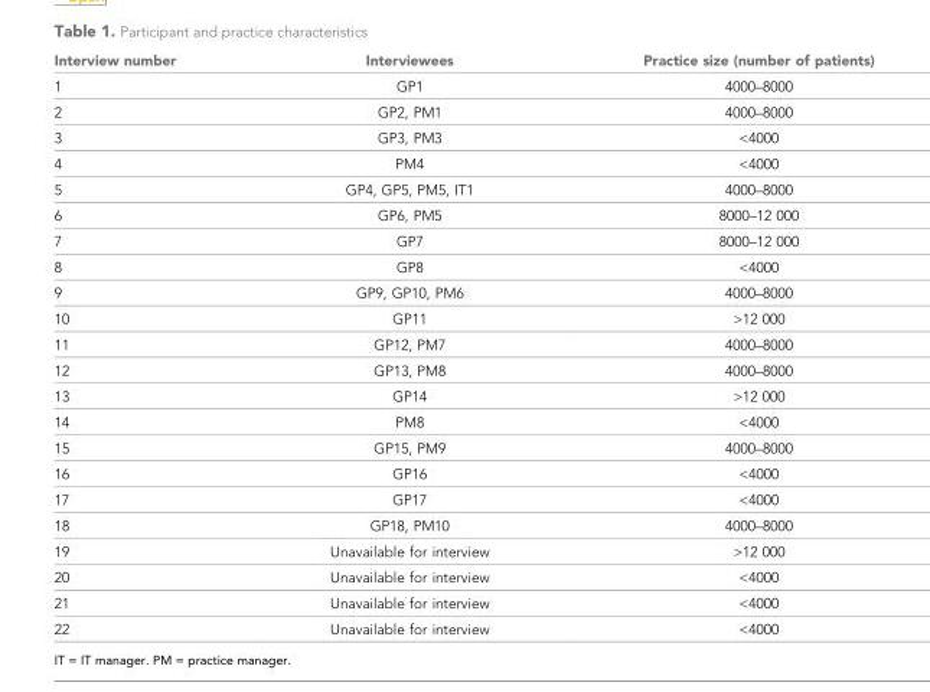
<table><thead><tr><td>Interview number</td><td>Interviewees</td><td>Practice size (number of patients)</td></tr></thead><tbody><tr><td>1</td><td>GP1</td><td>4000–8000</td></tr><tr><td>2</td><td>GP2, PM1</td><td>4000–8000</td></tr><tr><td>3</td><td>GP3, PM3</td><td>&lt;4000</td></tr><tr><td>4</td><td>PM4</td><td>&lt;4000</td></tr><tr><td>5</td><td>GP4, GP5, PM5, IT1</td><td>4000–8000</td></tr><tr><td>6</td><td>GP6, PM5</td><td>8000–12 000</td></tr><tr><td>7</td><td>GP7</td><td>8000–12 000</td></tr><tr><td>8</td><td>GP8</td><td>&lt;4000</td></tr><tr><td>9</td><td>GP9, GP10, PM6</td><td>4000–8000</td></tr><tr><td>10</td><td>GP11</td><td>&gt;12 000</td></tr><tr><td>11</td><td>GP12, PM7</td><td>4000–8000</td></tr><tr><td>12</td><td>GP13, PM8</td><td>4000–8000</td></tr><tr><td>13</td><td>GP14</td><td>&gt;12 000</td></tr><tr><td>14</td><td>PM8</td><td>&lt;4000</td></tr><tr><td>15</td><td>GP15, PM9</td><td>4000–8000</td></tr><tr><td>16</td><td>GP16</td><td>&lt;4000</td></tr><tr><td>17</td><td>GP17</td><td>&lt;4000</td></tr><tr><td>18</td><td>GP18, PM10</td><td>4000–8000</td></tr><tr><td>19</td><td>Unavailable for interview</td><td>&gt;12 000</td></tr><tr><td>20</td><td>Unavailable for interview</td><td>&lt;4000</td></tr><tr><td>21</td><td>Unavailable for interview</td><td>&lt;4000</td></tr><tr><td>22</td><td>Unavailable for interview</td><td>&lt;4000</td></tr></tbody></table>